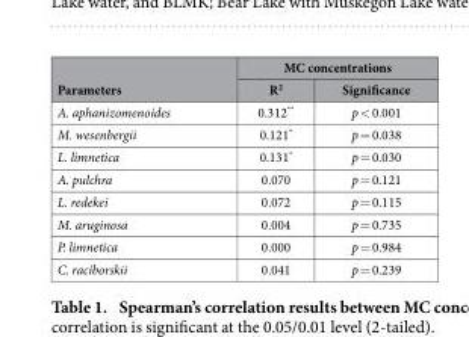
<table><thead><tr><td rowspan="2">Parameters</td><td colspan="2">MC concentrations</td></tr><tr><td>R<sup>2</sup></td><td>Significance</td></tr></thead><tbody><tr><td>A. aphanizomenoides</td><td>0.312**</td><td>p &lt; 0.001</td></tr><tr><td>M. wesenbergii</td><td>0.121*</td><td>p = 0.038</td></tr><tr><td>L. limnetica</td><td>0.131*</td><td>p = 0.030</td></tr><tr><td>A. pulchra</td><td>0.070</td><td>p = 0.121</td></tr><tr><td>L. redekei</td><td>0.072</td><td>p = 0.115</td></tr><tr><td>M. aruginosa</td><td>0.004</td><td>p = 0.735</td></tr><tr><td>P. limnetica</td><td>0.000</td><td>p = 0.984</td></tr><tr><td>C. raciborskii</td><td>0.041</td><td>p = 0.239</td></tr></tbody></table>